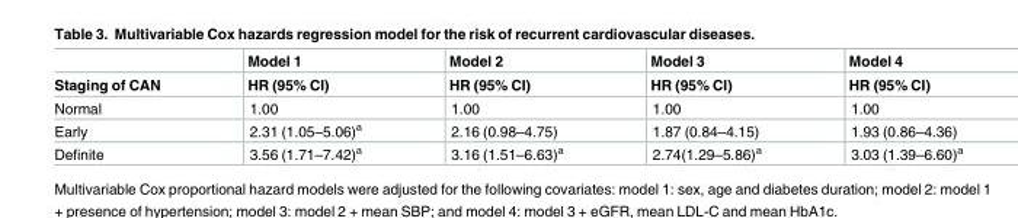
<table><thead><tr><td rowspan="2">Staging of CAN</td><td rowspan="2">Model 1 HR (95% CI)</td><td rowspan="2">Model 2 HR (95% CI)</td><td rowspan="2">Model 3 HR (95% CI)</td><td rowspan="2">Model 4 HR (95% CI)</td></tr><tr></tr></thead><tbody><tr><td>Normal</td><td>1.00</td><td>1.00</td><td>1.00</td><td>1.00</td></tr><tr><td>Early</td><td>2.31 (1.05–5.06)<sup>a</sup></td><td>2.16 (0.98–4.75)</td><td>1.87 (0.84–4.15)</td><td>1.93 (0.86–4.36)</td></tr><tr><td>Definite</td><td>3.56 (1.71–7.42)<sup>a</sup></td><td>3.16 (1.51–6.63)<sup>a</sup></td><td>2.74(1.29–5.86)<sup>a</sup></td><td>3.03 (1.39–6.60)<sup>a</sup></td></tr></tbody></table>